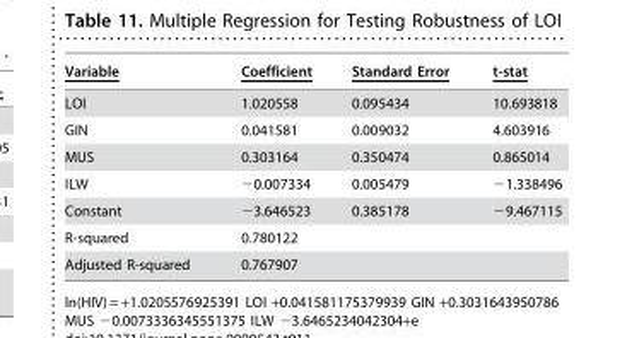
<table><thead><tr><td>Variable</td><td>Coefficient</td><td>Standard Error</td><td>t-stat</td></tr></thead><tbody><tr><td>LOI</td><td>1.020558</td><td>0.095434</td><td>10.693818</td></tr><tr><td>GIN</td><td>0.041581</td><td>0.009032</td><td>4.603916</td></tr><tr><td>MUS</td><td>0.303164</td><td>0.350474</td><td>0.865014</td></tr><tr><td>ILW</td><td>−0.007334</td><td>0.005479</td><td>−1.338496</td></tr><tr><td>Constant</td><td>−3.646523</td><td>0.385178</td><td>−9.467115</td></tr><tr><td>R-squared</td><td>0.780122</td><td></td><td></td></tr><tr><td>Adjusted R-squared</td><td>0.767907</td><td></td><td></td></tr></tbody></table>